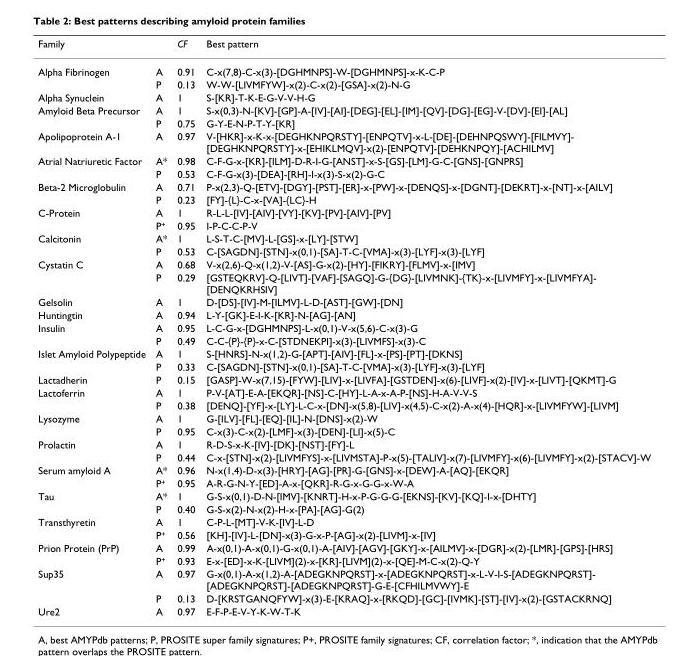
<table><thead><tr><td>Family</td><td></td><td>CF</td><td>Best pattern</td></tr></thead><tbody><tr><td rowspan="2">Alpha Fibrinogen</td><td>A</td><td>0.91</td><td>C-x(7,8)-C-x(3)-[DGHMNPS]-W-[DGHMNPS]-x-K-C-P</td></tr><tr><td>P</td><td>0.13</td><td>W-W-[LIVMFYW]-x(2)-C-x(2)-[GSA]-x(2)-N-G</td></tr><tr><td>Alpha Synuclein</td><td>A</td><td>1</td><td>S-[KR]-T-K-E-G-V-V-H-G</td></tr><tr><td rowspan="2">Amyloid Beta Precursor</td><td>A</td><td>1</td><td>S-x(0,3)-N-[KV]-[GP]-A-[IV]-[AI]-[DEG]-[EL]-[IM]-[QV]-[DG]-[EG]-V-[DV]-[EI]-[AL]</td></tr><tr><td>P</td><td>0.75</td><td>G-Y-E-N-P-T-Y-[KR]</td></tr><tr><td>Apolipoprotein A-1</td><td>A</td><td>0.97</td><td>V-[HKR]-x-K-x-[DEGHKNPQRSTY]-[ENPQTV]-x-L-[DE]-[DEHNPQSWY]-[FILMVY]- [DEGHKNPQRSTY]-x-[EHIKLMQV]-x(2)-[ENPQTV]-[DEHKNPQY]-[ACHILMV]</td></tr><tr><td rowspan="2">Atrial Natriuretic Factor</td><td>A*</td><td>0.98</td><td>C-F-G-x-[KR]-[ILM]-D-R-I-G-[ANST]-x-S-[GS]-[LM]-G-C-[GNS]-[GNPRS]</td></tr><tr><td>P</td><td>0.53</td><td>C-F-G-x(3)-[DEA]-[RH]-I-x(3)-S-x(2)-G-C</td></tr><tr><td rowspan="2">Beta-2 Microglobulin</td><td>A</td><td>0.71</td><td>P-x(2,3)-Q-[ETV]-[DGY]-[PST]-[ER]-x-[PW]-x-[DENQS]-x-[DGNT]-[DEKRT]-x-[NT]-x-[AILV]</td></tr><tr><td>P</td><td>0.23</td><td>[FY]-{L}-C-x-[VA]-{LC}-H</td></tr><tr><td rowspan="2">C-Protein</td><td>A</td><td>1</td><td>R-L-L-[IV]-[AIV]-[VY]-[KV]-[PV]-[AIV]-[PV]</td></tr><tr><td>P<sup>+</sup></td><td>0.95</td><td>I-P-C-C-P-V</td></tr><tr><td rowspan="2">Calcitonin</td><td>A*</td><td>1</td><td>L-S-T-C-[MV]-L-[GS]-x-[LY]-[STW]</td></tr><tr><td>P</td><td>0.53</td><td>C-[SAGDN]-[STN]-x(0,1)-[SA]-T-C-[VMA]-x(3)-[LYF]-x(3)-[LYF]</td></tr><tr><td rowspan="2">Cystatin C</td><td>A</td><td>0.68</td><td>V-x(2,6)-Q-x(1,2)-V-[AS]-G-x(2)-[HY]-[FIKRY]-[FLMV]-x-[IMV]</td></tr><tr><td>P</td><td>0.29</td><td>[GSTEQKRV]-Q-[LIVT]-[VAF]-[SAGQ]-G-{DG}-[LIVMNK]-{TK}-x-[LIVMFY]-x-[LIVMFYA]- [DENQKRHSIV]</td></tr><tr><td>Gelsolin</td><td>A</td><td>1</td><td>D-[DS]-[IV]-M-[ILMV]-L-D-[AST]-[GW]-[DN]</td></tr><tr><td>Huntingtin</td><td>A</td><td>0.94</td><td>L-Y-[GK]-E-I-K-[KR]-N-[AG]-[AN]</td></tr><tr><td rowspan="2">Insulin</td><td>A</td><td>0.95</td><td>L-C-G-x-[DGHMNPS]-L-x(0,1)-V-x(5,6)-C-x(3)-G</td></tr><tr><td>P</td><td>0.49</td><td>C-C-{P}-{P}-x-C-[STDNEKPI]-x(3)-[LIVMFS]-x(3)-C</td></tr><tr><td rowspan="2">Islet Amyloid Polypeptide</td><td>A</td><td>1</td><td>S-[HNRS]-N-x(1,2)-G-[APT]-[AIV]-[FL]-x-[PS]-[PT]-[DKNS]</td></tr><tr><td>P</td><td>0.33</td><td>C-[SAGDN]-[STN]-x(0,1)-[SA]-T-C-[VMA]-x(3)-[LYF]-x(3)-[LYF]</td></tr><tr><td>Lactadherin</td><td>P</td><td>0.15</td><td>[GASP]-W-x(7,15)-[FYW]-[LIV]-x-[LIVFA]-[GSTDEN]-x(6)-[LIVF]-x(2)-[IV]-x-[LIVT]-[QKMT]-G</td></tr><tr><td rowspan="2">Lactoferrin</td><td>A</td><td>1</td><td>P-V-[AT]-E-A-[EKQR]-[NS]-C-[HY]-L-A-x-A-P-[NS]-H-A-V-V-S</td></tr><tr><td>P</td><td>0.38</td><td>[DENQ]-[YF]-x-[LY]-L-C-x-[DN]-x(5,8)-[LIV]-x(4,5)-C-x(2)-A-x(4)-[HQR]-x-[LIVMFYW]-[LIVM]</td></tr><tr><td rowspan="2">Lysozyme</td><td>A</td><td>1</td><td>G-[ILV]-[FL]-[EQ]-[IL]-N-[DNS]-x(2)-W</td></tr><tr><td>P</td><td>0.95</td><td>C-x(3)-C-x(2)-[LMF]-x(3)-[DEN]-[LI]-x(5)-C</td></tr><tr><td rowspan="2">Prolactin</td><td>A</td><td>1</td><td>R-D-S-x-K-[IV]-[DK]-[NST]-[FY]-L</td></tr><tr><td>P</td><td>0.44</td><td>C-x-[STN]-x(2)-[LIVMFYS]-x-[LIVMSTA]-P-x(5)-[TALIV]-x(7)-[LIVMFY]-x(6)-[LIVMFY]-x(2)-[STACV]-W</td></tr><tr><td rowspan="2">Serum amyloid A</td><td>A*</td><td>0.96</td><td>N-x(1,4)-D-x(3)-[HRY]-[AG]-[PR]-G-[GNS]-x-[DEW]-A-[AQ]-[EKQR]</td></tr><tr><td>P<sup>+</sup></td><td>0.95</td><td>A-R-G-N-Y-[ED]-A-x-[QKR]-R-G-x-G-G-x-W-A</td></tr><tr><td rowspan="2">Tau</td><td>A*</td><td>1</td><td>G-S-x(0,1)-D-N-[IMV]-[KNRT]-H-x-P-G-G-G-[EKNS]-[KV]-[KQ]-I-x-[DHTY]</td></tr><tr><td>P</td><td>0.40</td><td>G-S-x(2)-N-x(2)-H-x-[PA]-[AG]-G(2)</td></tr><tr><td rowspan="2">Transthyretin</td><td>A</td><td>1</td><td>C-P-L-[MT]-V-K-[IV]-L-D</td></tr><tr><td>P<sup>+</sup></td><td>0.56</td><td>[KH]-[IV]-L-[DN]-x(3)-G-x-P-[AG]-x(2)-[LIVM]-x-[IV]</td></tr><tr><td rowspan="2">Prion Protein (PrP)</td><td>A</td><td>0.99</td><td>A-x(0,1)-A-x(0,1)-G-x(0,1)-A-[AIV]-[AGV]-[GKY]-x-[AILMV]-x-[DGR]-x(2)-[LMR]-[GPS]-[HRS]</td></tr><tr><td>P<sup>+</sup></td><td>0.93</td><td>E-x-[ED]-x-K-[LIVM](2)-x-[KR]-[LIVM](2)-x-[QE]-M-C-x(2)-Q-Y</td></tr><tr><td rowspan="2">Sup35</td><td>A</td><td>0.97</td><td>G-x(0,1)-A-x(1,2)-A-[ADEGKNPQRST]-x-[ADEGKNPQRST]-x-L-V-I-S-[ADEGKNPQRST]- [ADEGKNPQRST]-[ADEGKNPQRST]-G-E-[CFHILMVWY]-E</td></tr><tr><td>P</td><td>0.13</td><td>D-[KRSTGANQFYW]-x(3)-E-[KRAQ]-x-[RKQD]-[GC]-[IVMK]-[ST]-[IV]-x(2)-[GSTACKRNQ]</td></tr><tr><td>Ure2</td><td>A</td><td>0.97</td><td>E-F-P-E-V-Y-K-W-T-K</td></tr></tbody></table>